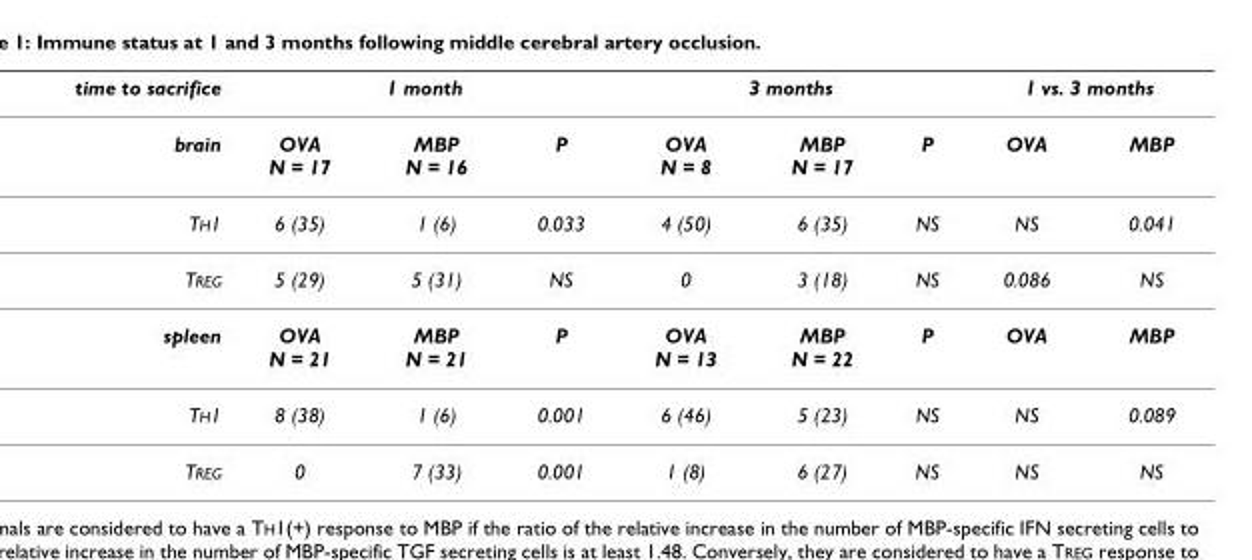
<table><thead><tr><td rowspan="2">time to sacrifice brain</td><td colspan="3">1 month</td><td colspan="3">3 months</td><td colspan="2">1 vs. 3 months</td></tr><tr><td>OVA N = 17</td><td>MBP N = 16</td><td>P</td><td>OVA N = 8</td><td>MBP N = 17</td><td>P</td><td>OVA</td><td>MBP</td></tr></thead><tbody><tr><td>TH1</td><td>6 (35)</td><td>1 (6)</td><td>0.033</td><td>4 (50)</td><td>6 (35)</td><td>NS</td><td>NS</td><td>0.041</td></tr><tr><td>TREG</td><td>5 (29)</td><td>5 (31)</td><td>NS</td><td>0</td><td>3 (18)</td><td>NS</td><td>0.086</td><td>NS</td></tr><tr><td>spleen</td><td>OVA N = 21</td><td>MBP N = 21</td><td>P</td><td>OVA N = 13</td><td>MBP N = 22</td><td>P</td><td>OVA</td><td>MBP</td></tr><tr><td>TH1</td><td>8 (38)</td><td>1 (6)</td><td>0.001</td><td>6 (46)</td><td>5 (23)</td><td>NS</td><td>NS</td><td>0.089</td></tr><tr><td>TREG</td><td>0</td><td>7 (33)</td><td>0.001</td><td>1 (8)</td><td>6 (27)</td><td>NS</td><td>NS</td><td>NS</td></tr></tbody></table>